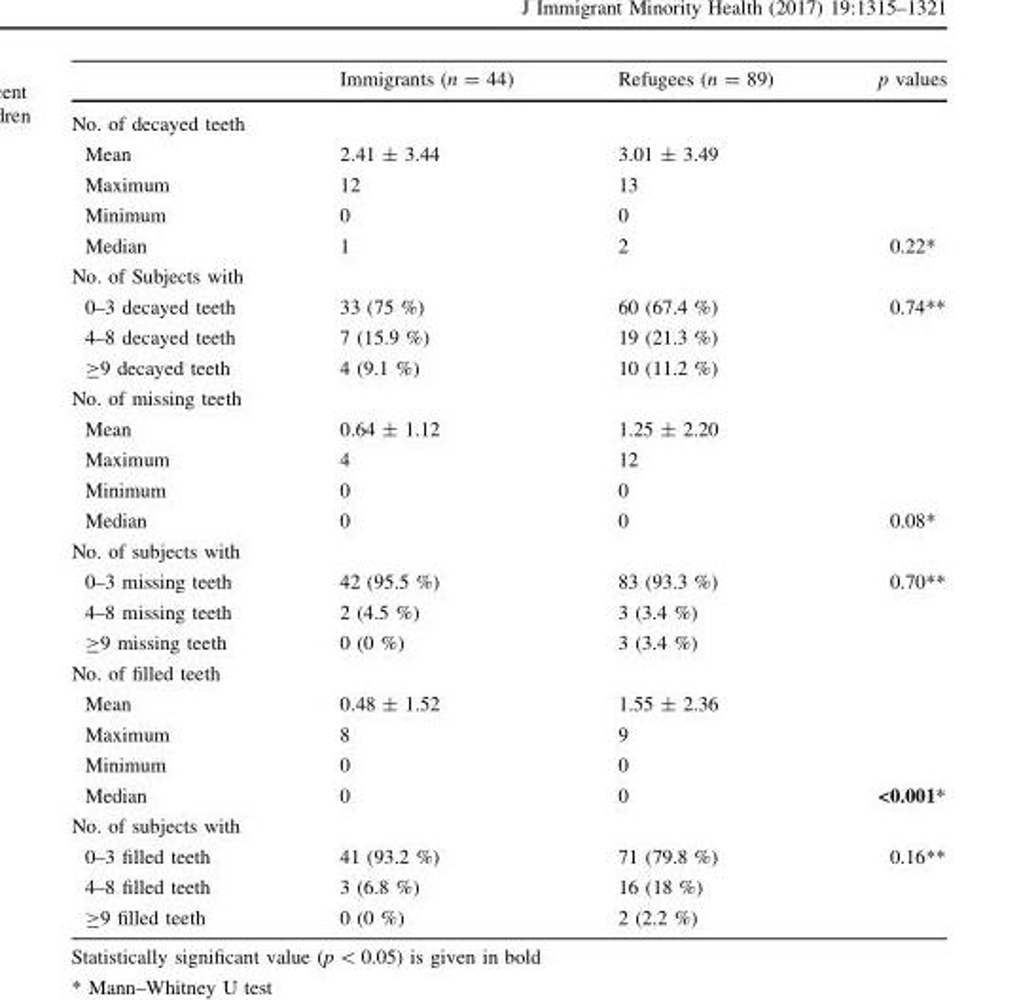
<table><thead><tr><td></td><td>Immigrants (n = 44)</td><td>Refugees (n = 89)</td><td>p values</td></tr></thead><tbody><tr><td colspan="4">No. of decayed teeth</td></tr><tr><td>Mean</td><td>2.41 ± 3.44</td><td>3.01 ± 3.49</td><td></td></tr><tr><td>Maximum</td><td>12</td><td>13</td><td></td></tr><tr><td>Minimum</td><td>0</td><td>0</td><td></td></tr><tr><td>Median</td><td>1</td><td>2</td><td>0.22*</td></tr><tr><td colspan="4">No. of Subjects with</td></tr><tr><td>0–3 decayed teeth</td><td>33 (75 %)</td><td>60 (67.4 %)</td><td>0.74**</td></tr><tr><td>4–8 decayed teeth</td><td>7 (15.9 %)</td><td>19 (21.3 %)</td><td></td></tr><tr><td>≥9 decayed teeth</td><td>4 (9.1 %)</td><td>10 (11.2 %)</td><td></td></tr><tr><td colspan="4">No. of missing teeth</td></tr><tr><td>Mean</td><td>0.64 ± 1.12</td><td>1.25 ± 2.20</td><td></td></tr><tr><td>Maximum</td><td>4</td><td>12</td><td></td></tr><tr><td>Minimum</td><td>0</td><td>0</td><td></td></tr><tr><td>Median</td><td>0</td><td>0</td><td>0.08*</td></tr><tr><td colspan="4">No. of subjects with</td></tr><tr><td>0–3 missing teeth</td><td>42 (95.5 %)</td><td>83 (93.3 %)</td><td>0.70**</td></tr><tr><td>4–8 missing teeth</td><td>2 (4.5 %)</td><td>3 (3.4 %)</td><td></td></tr><tr><td>≥9 missing teeth</td><td>0 (0 %)</td><td>3 (3.4 %)</td><td></td></tr><tr><td colspan="4">No. of filled teeth</td></tr><tr><td>Mean</td><td>0.48 ± 1.52</td><td>1.55 ± 2.36</td><td></td></tr><tr><td>Maximum</td><td>8</td><td>9</td><td></td></tr><tr><td>Minimum</td><td>0</td><td>0</td><td></td></tr><tr><td>Median</td><td>0</td><td>0</td><td>&lt;0.001*</td></tr><tr><td colspan="4">No. of subjects with</td></tr><tr><td>0–3 filled teeth</td><td>41 (93.2 %)</td><td>71 (79.8 %)</td><td>0.16**</td></tr><tr><td>4–8 filled teeth</td><td>3 (6.8 %)</td><td>16 (18 %)</td><td></td></tr><tr><td>≥9 filled teeth</td><td>0 (0 %)</td><td>2 (2.2 %)</td><td></td></tr></tbody></table>